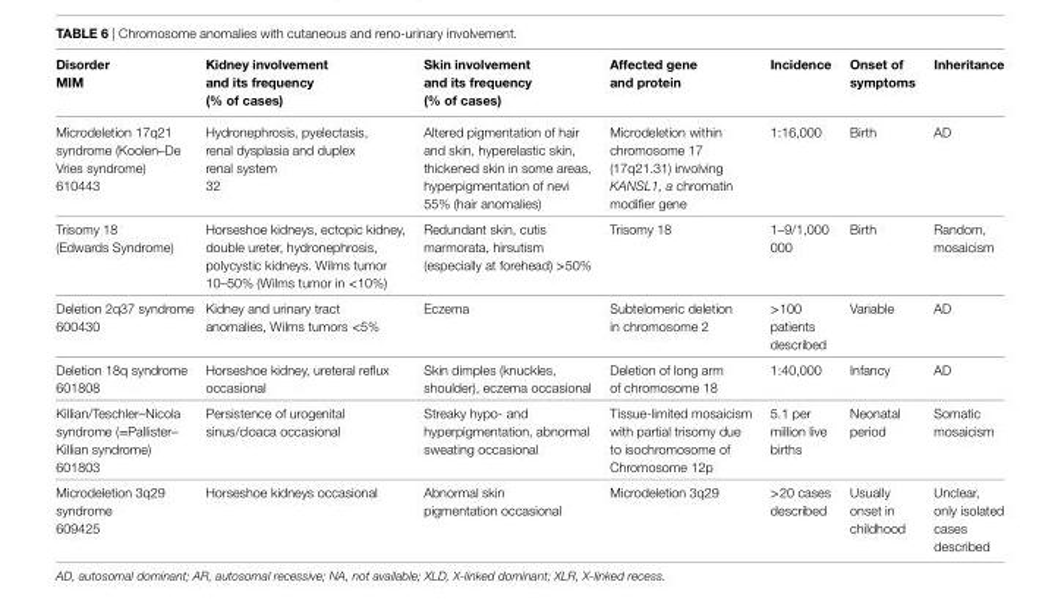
<table><thead><tr><td>Disorder MiM</td><td>Kidney involvement and its frequency (% of cases)</td><td>Skin involvement and its frequency (% of cases)</td><td>Affected gene and protein</td><td>incidence</td><td>Onset of symptoms</td><td>inheritance</td></tr></thead><tbody><tr><td>Microdeletion 17q21 syndrome (Koolen–De Vries syndrome) 610443</td><td>Hydronephrosis, pyelectasis, renal dysplasia and duplex renal system 32</td><td>Altered pigmentation of hair and skin, hyperelastic skin, thickened skin in some areas, hyperpigmentation of nevi 55% (hair anomalies)</td><td>Microdeletion within chromosome 17 (17q21.31) involving KANSL1, a chromatin modifier gene</td><td>1:16,000</td><td>Birth</td><td>AD</td></tr><tr><td>Trisomy 18 (Edwards Syndrome)</td><td>Horseshoe kidneys, ectopic kidney, double ureter, hydronephrosis, polycystic kidneys. Wilms tumor 10–50% (Wilms tumor in &lt;10%)</td><td>Redundant skin, cutis marmorata, hirsutism (especially at forehead) &gt;50%</td><td>Trisomy 18</td><td>1–9/1,000 000</td><td>Birth</td><td>Random, mosaicism</td></tr><tr><td>Deletion 2q37 syndrome 600430</td><td>Kidney and urinary tract anomalies, Wilms tumors &lt;5%</td><td>Eczema</td><td>Subtelomeric deletion in chromosome 2</td><td>&gt;100 patients described</td><td>Variable</td><td>AD</td></tr><tr><td>Deletion 18q syndrome 601808</td><td>Horseshoe kidney, ureteral reflux occasional</td><td>Skin dimples (knuckles, shoulder), eczema occasional</td><td>Deletion of long arm of chromosome 18</td><td>1:40,000</td><td>Infancy</td><td>AD</td></tr><tr><td>Killian/Teschler–Nicola syndrome (=Pallister– Killian syndrome) 601803</td><td>Persistence of urogenital sinus/cloaca occasional</td><td>Streaky hypo- and hyperpigmentation, abnormal sweating occasional</td><td>Tissue-limited mosaicism with partial trisomy due to isochromosome of Chromosome 12p</td><td>5.1 per million live births</td><td>Neonatal period</td><td>Somatic mosaicism</td></tr><tr><td>Microdeletion 3q29 syndrome 609425</td><td>Horseshoe kidneys occasional</td><td>Abnormal skin pigmentation occasional</td><td>Microdeletion 3q29</td><td>&gt;20 cases described</td><td>Usually onset in childhood</td><td>Unclear, only isolated cases described</td></tr></tbody></table>